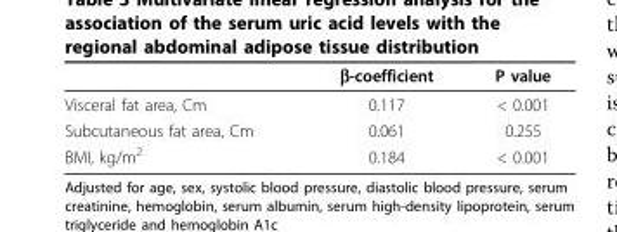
<table><thead><tr><td></td><td>β-coefficient</td><td>P value</td></tr></thead><tbody><tr><td>Visceral fat area, Cm</td><td>0.117</td><td>&lt; 0.001</td></tr><tr><td>Subcutaneous fat area, Cm</td><td>0.061</td><td>0.255</td></tr><tr><td>BMI, kg/m<sup>2</sup></td><td>0.184</td><td>&lt; 0.001</td></tr></tbody></table>